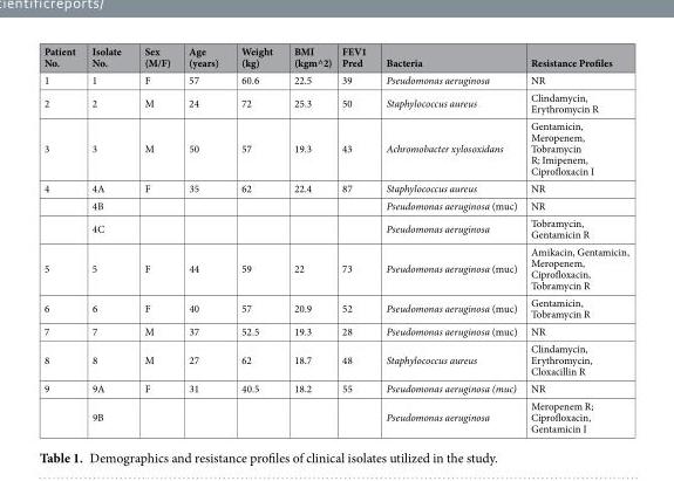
<table><thead><tr><td>Patient No.</td><td>Isolate No.</td><td>Sex (M/F)</td><td>Age (years)</td><td>Weight (kg)</td><td>BMI (kgm^2)</td><td>FEV1 Pred</td><td>Bacteria</td><td>Resistance Profiles</td></tr></thead><tbody><tr><td>1</td><td>1</td><td>F</td><td>57</td><td>60.6</td><td>22.5</td><td>39</td><td>Pseudomonas aeruginosa</td><td>NR</td></tr><tr><td>2</td><td>2</td><td>M</td><td>24</td><td>72</td><td>25.3</td><td>50</td><td>Staphylococcus aureus</td><td>Clindamycin, Erythromycin R</td></tr><tr><td>3</td><td>3</td><td>M</td><td>50</td><td>57</td><td>19.3</td><td>43</td><td>Achromobacter xylosoxidans</td><td>Gentamicin, Meropenem, Tobramycin R; Imipenem, Ciprofloxacin I</td></tr><tr><td rowspan="3">4</td><td>4A</td><td>F</td><td>35</td><td>62</td><td>22.4</td><td>87</td><td>Staphylococcus aureus</td><td>NR</td></tr><tr><td>4B</td><td></td><td></td><td></td><td></td><td></td><td>Pseudomonas aeruginosa (muc)</td><td>NR</td></tr><tr><td>4C</td><td></td><td></td><td></td><td></td><td></td><td>Pseudomonas aeruginosa</td><td>Tobramycin, Gentamicin R</td></tr><tr><td>5</td><td>5</td><td>F</td><td>44</td><td>59</td><td>22</td><td>73</td><td>Pseudomonas aeruginosa (muc)</td><td>Amikacin, Gentamicin, Meropenem, Ciprofloxacin, Tobramycin R</td></tr><tr><td>6</td><td>6</td><td>F</td><td>40</td><td>57</td><td>20.9</td><td>52</td><td>Pseudomonas aeruginosa (muc)</td><td>Gentamicin, Tobramycin R</td></tr><tr><td>7</td><td>7</td><td>M</td><td>37</td><td>52.5</td><td>19.3</td><td>28</td><td>Pseudomonas aeruginosa (muc)</td><td>NR</td></tr><tr><td>8</td><td>8</td><td>M</td><td>27</td><td>62</td><td>18.7</td><td>48</td><td>Staphylococcus aureus</td><td>Clindamycin, Erythromycin, Cloxacillin R</td></tr><tr><td rowspan="2">9</td><td>9A</td><td>F</td><td>31</td><td>40.5</td><td>18.2</td><td>55</td><td>Pseudomonas aeruginosa (muc)</td><td>NR</td></tr><tr><td>9B</td><td></td><td></td><td></td><td></td><td></td><td>Pseudomonas aeruginosa</td><td>Meropenem R; Ciprofloxacin, Gentamicin I</td></tr></tbody></table>